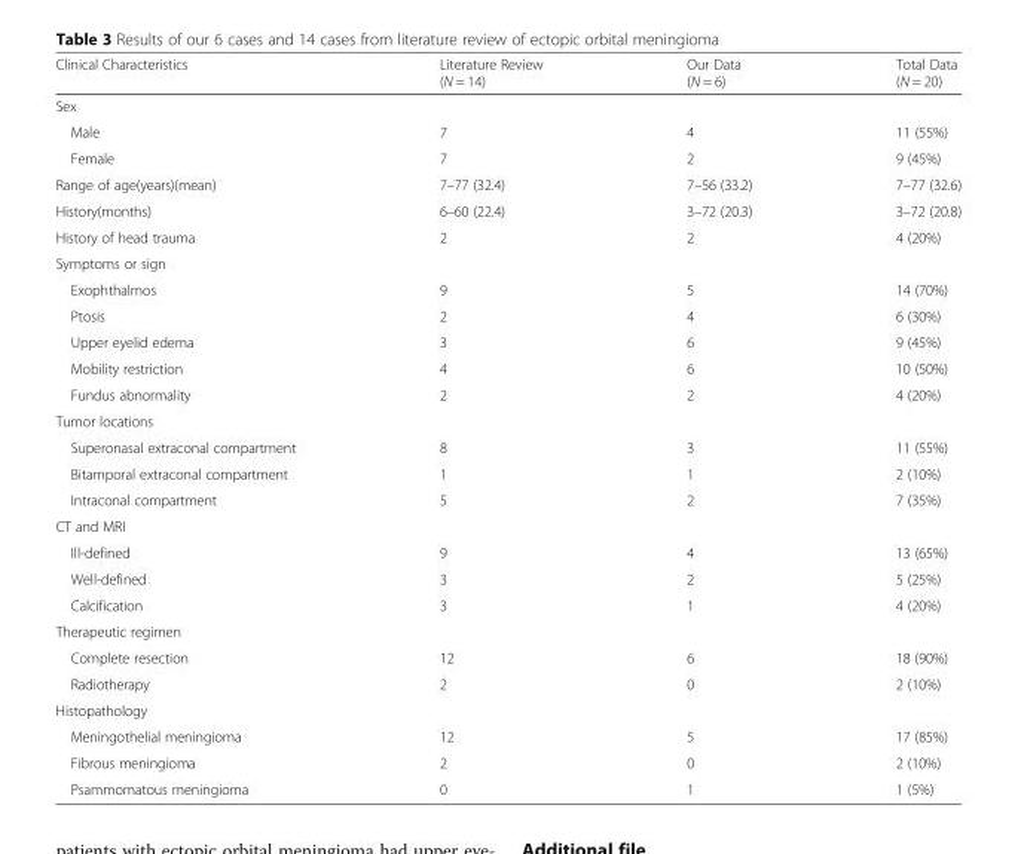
<table><thead><tr><td>Clinical Characteristics</td><td>Literature Review (N = 14)</td><td>Our Data (N = 6)</td><td>Total Data (N = 20)</td></tr></thead><tbody><tr><td colspan="4">Sex</td></tr><tr><td>Male</td><td>7</td><td>4</td><td>11 (55%)</td></tr><tr><td>Female</td><td>7</td><td>2</td><td>9 (45%)</td></tr><tr><td>Range of age(years)(mean)</td><td>7–77 (32.4)</td><td>7–56 (33.2)</td><td>7–77 (32.6)</td></tr><tr><td>History(months)</td><td>6–60 (22.4)</td><td>3–72 (20.3)</td><td>3–72 (20.8)</td></tr><tr><td>History of head trauma</td><td>2</td><td>2</td><td>4 (20%)</td></tr><tr><td colspan="4">Symptoms or sign</td></tr><tr><td>Exophthalmos</td><td>9</td><td>5</td><td>14 (70%)</td></tr><tr><td>Ptosis</td><td>2</td><td>4</td><td>6 (30%)</td></tr><tr><td>Upper eyelid edema</td><td>3</td><td>6</td><td>9 (45%)</td></tr><tr><td>Mobility restriction</td><td>4</td><td>6</td><td>10 (50%)</td></tr><tr><td>Fundus abnormality</td><td>2</td><td>2</td><td>4 (20%)</td></tr><tr><td colspan="4">Tumor locations</td></tr><tr><td>Superonasal extraconal compartment</td><td>8</td><td>3</td><td>11 (55%)</td></tr><tr><td>Bitamporal extraconal compartment</td><td>1</td><td>1</td><td>2 (10%)</td></tr><tr><td>Intraconal compartment</td><td>5</td><td>2</td><td>7 (35%)</td></tr><tr><td colspan="4">CT and MRI</td></tr><tr><td>Ill-defined</td><td>9</td><td>4</td><td>13 (65%)</td></tr><tr><td>Well-defined</td><td>3</td><td>2</td><td>5 (25%)</td></tr><tr><td>Calcification</td><td>3</td><td>1</td><td>4 (20%)</td></tr><tr><td colspan="4">Therapeutic regimen</td></tr><tr><td>Complete resection</td><td>12</td><td>6</td><td>18 (90%)</td></tr><tr><td>Radiotherapy</td><td>2</td><td>0</td><td>2 (10%)</td></tr><tr><td colspan="4">Histopathology</td></tr><tr><td>Meningothelial meningioma</td><td>12</td><td>5</td><td>17 (85%)</td></tr><tr><td>Fibrous meningioma</td><td>2</td><td>0</td><td>2 (10%)</td></tr><tr><td>Psammomatous meningioma</td><td>0</td><td>1</td><td>1 (5%)</td></tr></tbody></table>